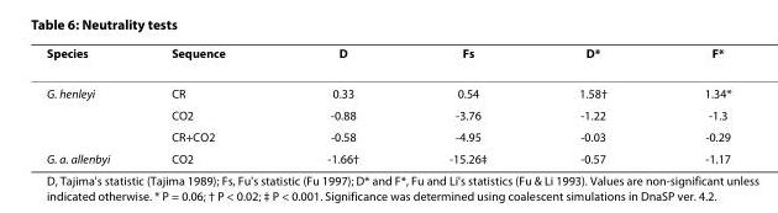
<table><thead><tr><td>Species</td><td>Sequence</td><td>D</td><td>Fs</td><td>D*</td><td>F*</td></tr></thead><tbody><tr><td rowspan="3">G. henleyi</td><td>CR</td><td>0.33</td><td>0.54</td><td>1.58†</td><td>1.34*</td></tr><tr><td>CO2</td><td>-0.88</td><td>-3.76</td><td>-1.22</td><td>-1.3</td></tr><tr><td>CR+CO2</td><td>-0.58</td><td>-4.95</td><td>-0.03</td><td>-0.29</td></tr><tr><td>G. a. allenbyi</td><td>CO2</td><td>-1.66†</td><td>-15.26‡</td><td>-0.57</td><td>-1.17</td></tr></tbody></table>